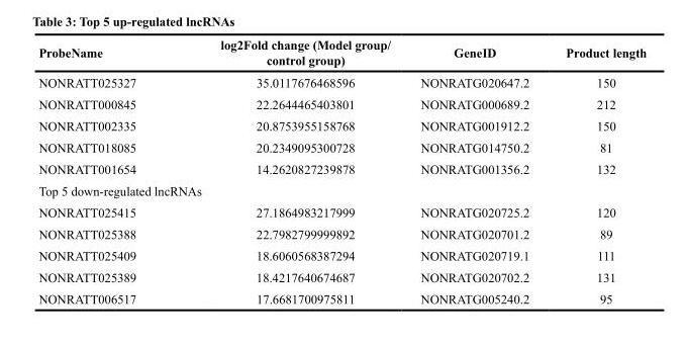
<table><thead><tr><td>ProbeName</td><td>log2Fold change (Model group/ control group)</td><td>GeneID</td><td>Product length</td></tr></thead><tbody><tr><td>NONRATT025327</td><td>35.0117676468596</td><td>NONRATG020647.2</td><td>150</td></tr><tr><td>NONRATT000845</td><td>22.2644465403801</td><td>NONRATG000689.2</td><td>212</td></tr><tr><td>NONRATT002335</td><td>20.8753955158768</td><td>NONRATG001912.2</td><td>150</td></tr><tr><td>NONRATT018085</td><td>20.2349095300728</td><td>NONRATG014750.2</td><td>81</td></tr><tr><td>NONRATT001654</td><td>14.2620827239878</td><td>NONRATG001356.2</td><td>132</td></tr><tr><td colspan="4">Top 5 down-regulated lncRNAs</td></tr><tr><td>NONRATT025415</td><td>27.1864983217999</td><td>NONRATG020725.2</td><td>120</td></tr><tr><td>NONRATT025388</td><td>22.7982799999892</td><td>NONRATG020701.2</td><td>89</td></tr><tr><td>NONRATT025409</td><td>18.6060568387294</td><td>NONRATG020719.1</td><td>111</td></tr><tr><td>NONRATT025389</td><td>18.4217640674687</td><td>NONRATG020702.2</td><td>131</td></tr><tr><td>NONRATT006517</td><td>17.6681700975811</td><td>NONRATG005240.2</td><td>95</td></tr></tbody></table>